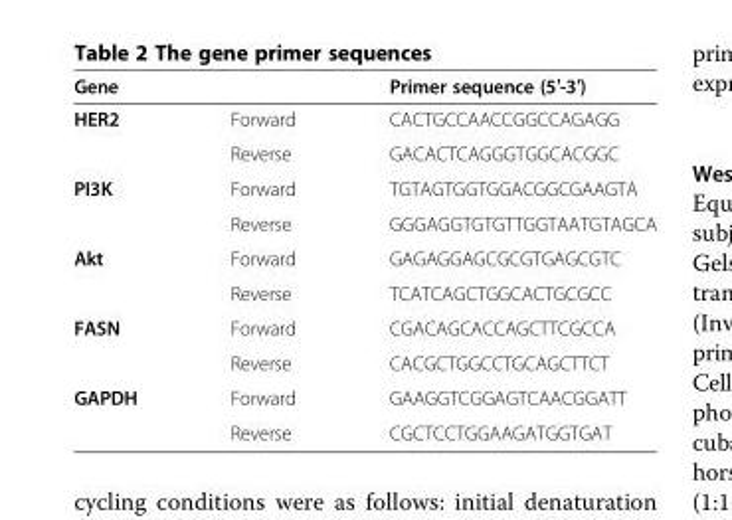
<table><thead><tr><td>Gene</td><td></td><td>Primer sequence (5′-3′)</td></tr></thead><tbody><tr><td rowspan="2">HER2</td><td>Forward</td><td>CACTGCCAACCGGCCAGAGG</td></tr><tr><td>Reverse</td><td>GACACTCAGGGTGGCACGGC</td></tr><tr><td rowspan="2">PI3K</td><td>Forward</td><td>TGTAGTGGTGGACGGCGAAGTA</td></tr><tr><td>Reverse</td><td>GGGAGGTGTGTTGGTAATGTAGCA</td></tr><tr><td rowspan="2">Akt</td><td>Forward</td><td>GAGAGGAGCGCGTGAGCGTC</td></tr><tr><td>Reverse</td><td>TCATCAGCTGGCACTGCGCC</td></tr><tr><td rowspan="2">FASN</td><td>Forward</td><td>CGACAGCACCAGCTTCGCCA</td></tr><tr><td>Reverse</td><td>CACGCTGGCCTGCAGCTTCT</td></tr><tr><td rowspan="2">GAPDH</td><td>Forward</td><td>GAAGGTCGGAGTCAACGGATT</td></tr><tr><td>Reverse</td><td>CGCTCCTGGAAGATGGTGAT</td></tr></tbody></table>